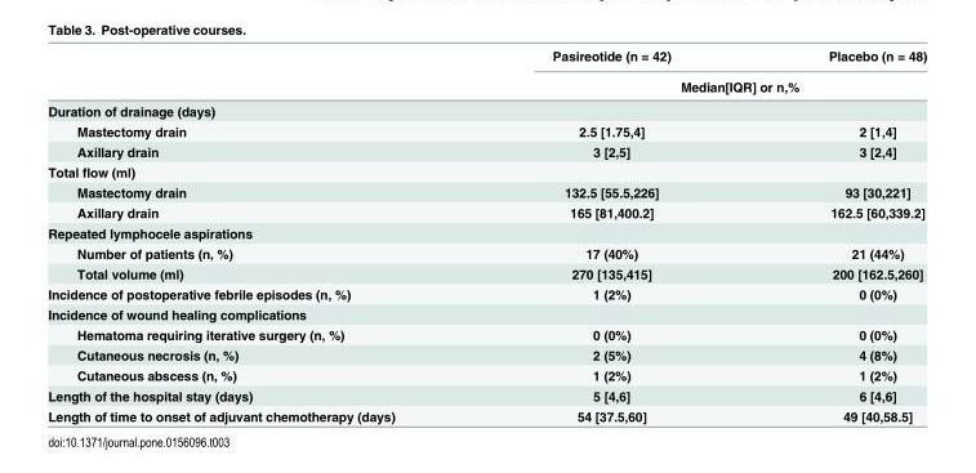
<table><thead><tr><td rowspan="2"></td><td>Pasireotide (n = 42)</td><td>Placebo (n = 48)</td></tr><tr><td colspan="2">Median[IQR] or n,%</td></tr></thead><tbody><tr><td colspan="3">Duration of drainage (days)</td></tr><tr><td>Mastectomy drain</td><td>2.5 [1.75,4]</td><td>2 [1,4]</td></tr><tr><td>Axillary drain</td><td>3 [2,5]</td><td>3 [2,4]</td></tr><tr><td colspan="3">Total flow (ml)</td></tr><tr><td>Mastectomy drain</td><td>132.5 [55.5,226]</td><td>93 [30,221]</td></tr><tr><td>Axillary drain</td><td>165 [81,400.2]</td><td>162.5 [60,339.2]</td></tr><tr><td colspan="3">Repeated lymphocele aspirations</td></tr><tr><td>Number of patients (n, %)</td><td>17 (40%)</td><td>21 (44%)</td></tr><tr><td>Total volume (ml)</td><td>270 [135,415]</td><td>200 [162.5,260]</td></tr><tr><td>Incidence of postoperative febrile episodes (n, %)</td><td>1 (2%)</td><td>0 (0%)</td></tr><tr><td colspan="3">Incidence of wound healing complications</td></tr><tr><td>Hematoma requiring iterative surgery (n, %)</td><td>0 (0%)</td><td>0 (0%)</td></tr><tr><td>Cutaneous necrosis (n, %)</td><td>2 (5%)</td><td>4 (8%)</td></tr><tr><td>Cutaneous abscess (n, %)</td><td>1 (2%)</td><td>1 (2%)</td></tr><tr><td>Length of the hospital stay (days)</td><td>5 [4,6]</td><td>6 [4,6]</td></tr><tr><td>Length of time to onset of adjuvant chemotherapy (days)</td><td>54 [37.5,60]</td><td>49 [40,58.5]</td></tr></tbody></table>